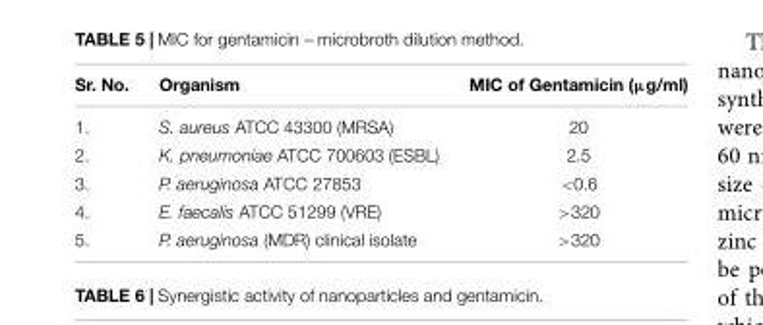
<table><thead><tr><td>Sr. No.</td><td>Organism</td><td>MIC of Gentamicin (µg/ml)</td></tr></thead><tbody><tr><td>1.</td><td>S. aureus ATCC 43300 (MRSA)</td><td>20</td></tr><tr><td>2.</td><td>K. pneumoniae ATCC 700603 (ESBL)</td><td>2.5</td></tr><tr><td>3.</td><td>P. aeruginosa ATCC 27853</td><td>&lt;0.6</td></tr><tr><td>4.</td><td>E. faecalis ATCC 51299 (VRE)</td><td>&gt;320</td></tr><tr><td>5.</td><td>P. aeruginosa (MDR) clinical isolate</td><td>&gt;320</td></tr></tbody></table>